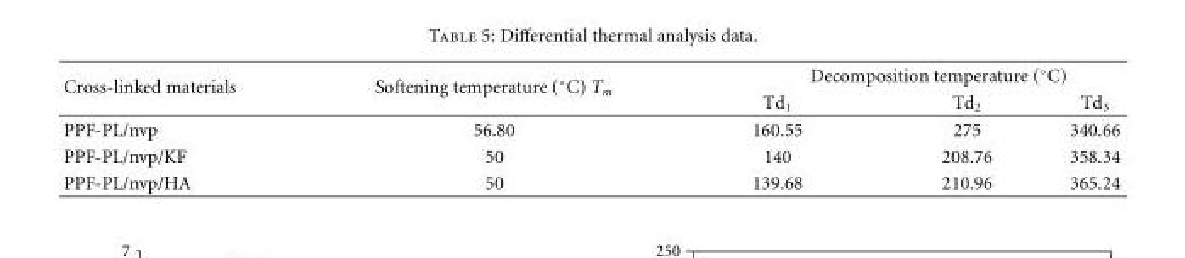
<table><thead><tr><td rowspan="2">Cross-linked materials</td><td rowspan="2">Softening temperature (◦C) Tm</td><td colspan="3">Decomposition temperature (◦C)</td></tr><tr><td>Td<sub>1</sub></td><td>Td<sub>2</sub></td><td>Td<sub>3</sub></td></tr></thead><tbody><tr><td>PPF-PL/nvp</td><td>56.80</td><td>160.55</td><td>275</td><td>340.66</td></tr><tr><td>PPF-PL/nvp/KF</td><td>50</td><td>140</td><td>208.76</td><td>358.34</td></tr><tr><td>PPF-PL/nvp/HA</td><td>50</td><td>139.68</td><td>210.96</td><td>365.24</td></tr></tbody></table>